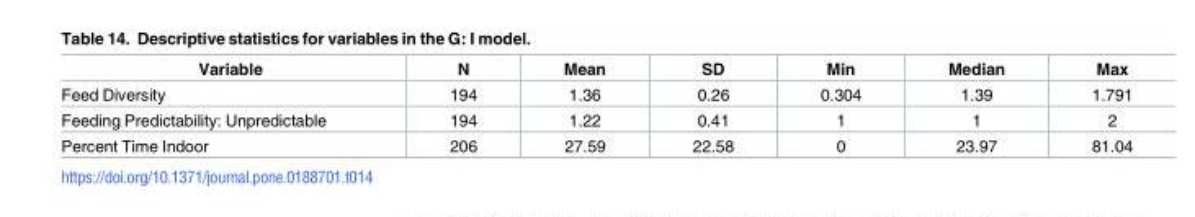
<table><thead><tr><td>Variable</td><td>N</td><td>Mean</td><td>SD</td><td>Min</td><td>Median</td><td>Max</td></tr></thead><tbody><tr><td>Feed Diversity</td><td>194</td><td>1.36</td><td>0.26</td><td>0.304</td><td>1.39</td><td>1.791</td></tr><tr><td>Feeding Predictability: Unpredictable</td><td>194</td><td>1.22</td><td>0.41</td><td>1</td><td>1</td><td>2</td></tr><tr><td>Percent Time Indoor</td><td>206</td><td>27.59</td><td>22.58</td><td>0</td><td>23.97</td><td>81.04</td></tr></tbody></table>